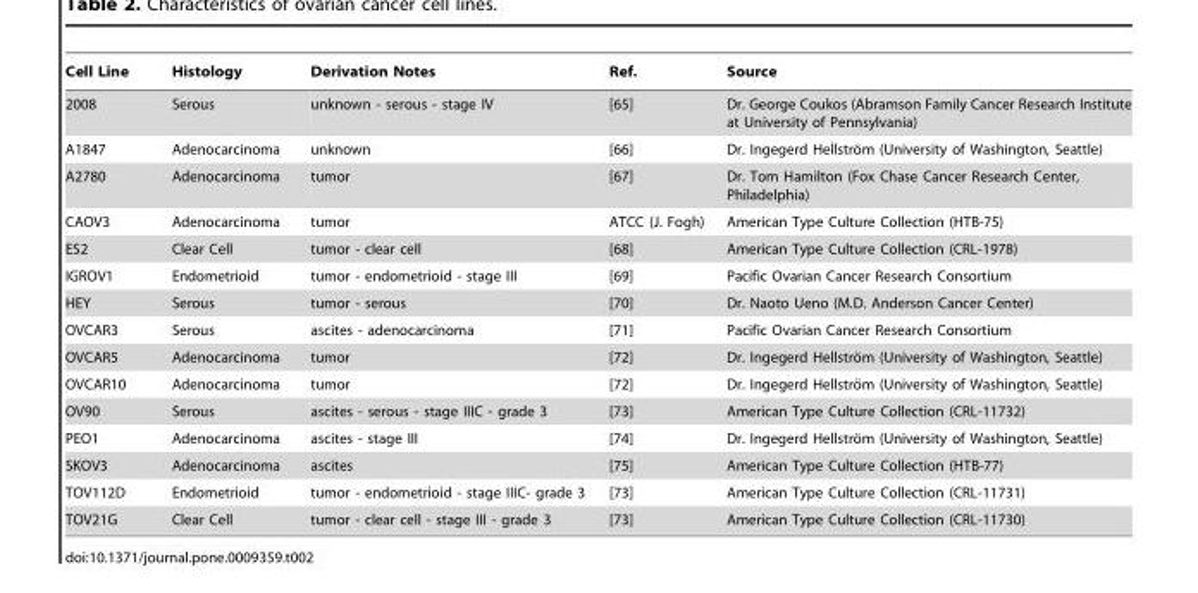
<table><thead><tr><td>Cell Line</td><td>Histology</td><td>Derivation Notes</td><td>Ref.</td><td>Source</td></tr></thead><tbody><tr><td>2008</td><td>Serous</td><td>unknown - serous - stage IV</td><td>[65]</td><td>Dr. George Coukos (Abramson Family Cancer Research Institute at University of Pennsylvania)</td></tr><tr><td>A1847</td><td>Adenocarcinoma</td><td>unknown</td><td>[66]</td><td>Dr. Ingegerd Hellstro¨m (University of Washington, Seattle)</td></tr><tr><td>A2780</td><td>Adenocarcinoma</td><td>tumor</td><td>[67]</td><td>Dr. Tom Hamilton (Fox Chase Cancer Research Center, Philadelphia)</td></tr><tr><td>CAOV3</td><td>Adenocarcinoma</td><td>tumor</td><td>ATCC (J. Fogh)</td><td>American Type Culture Collection (HTB-75)</td></tr><tr><td>ES2</td><td>Clear Cell</td><td>tumor - clear cell</td><td>[68]</td><td>American Type Culture Collection (CRL-1978)</td></tr><tr><td>IGROV1</td><td>Endometrioid</td><td>tumor - endometrioid - stage III</td><td>[69]</td><td>Pacific Ovarian Cancer Research Consortium</td></tr><tr><td>HEY</td><td>Serous</td><td>tumor - serous</td><td>[70]</td><td>Dr. Naoto Ueno (M.D. Anderson Cancer Center)</td></tr><tr><td>OVCAR3</td><td>Serous</td><td>ascites - adenocarcinoma</td><td>[71]</td><td>Pacific Ovarian Cancer Research Consortium</td></tr><tr><td>OVCAR5</td><td>Adenocarcinoma</td><td>tumor</td><td>[72]</td><td>Dr. Ingegerd Hellstro¨m (University of Washington, Seattle)</td></tr><tr><td>OVCAR10</td><td>Adenocarcinoma</td><td>tumor</td><td>[72]</td><td>Dr. Ingegerd Hellstro¨m (University of Washington, Seattle)</td></tr><tr><td>OV90</td><td>Serous</td><td>ascites - serous - stage IIIC - grade 3</td><td>[73]</td><td>American Type Culture Collection (CRL-11732)</td></tr><tr><td>PEO1</td><td>Adenocarcinoma</td><td>ascites - stage III</td><td>[74]</td><td>Dr. Ingegerd Hellstro¨m (University of Washington, Seattle)</td></tr><tr><td>SKOV3</td><td>Adenocarcinoma</td><td>ascites</td><td>[75]</td><td>American Type Culture Collection (HTB-77)</td></tr><tr><td>TOV112D</td><td>Endometrioid</td><td>tumor - endometrioid - stage IIIC- grade 3</td><td>[73]</td><td>American Type Culture Collection (CRL-11731)</td></tr><tr><td>TOV21G</td><td>Clear Cell</td><td>tumor - clear cell - stage III - grade 3</td><td>[73]</td><td>American Type Culture Collection (CRL-11730)</td></tr></tbody></table>